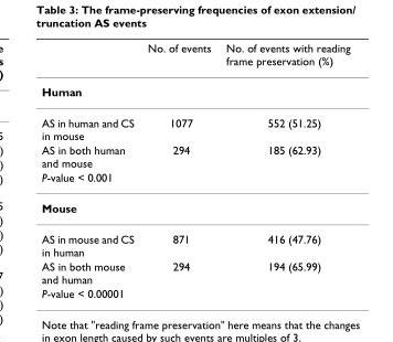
<table><thead><tr><td></td><td>No. of events</td><td>No. of events with reading frame preservation (%)</td></tr></thead><tbody><tr><td colspan="3">Human</td></tr><tr><td>AS in human and CS in mouse</td><td>1077</td><td>552 (51.25)</td></tr><tr><td>AS in both human and mouse</td><td>294</td><td>185 (62.93)</td></tr><tr><td colspan="3">P-value &lt; 0.001</td></tr><tr><td colspan="3">Mouse</td></tr><tr><td>AS in mouse and CS in human</td><td>871</td><td>416 (47.76)</td></tr><tr><td>AS in both mouse and human</td><td>294</td><td>194 (65.99)</td></tr><tr><td>P-value &lt; 0.00001</td><td></td><td></td></tr></tbody></table>